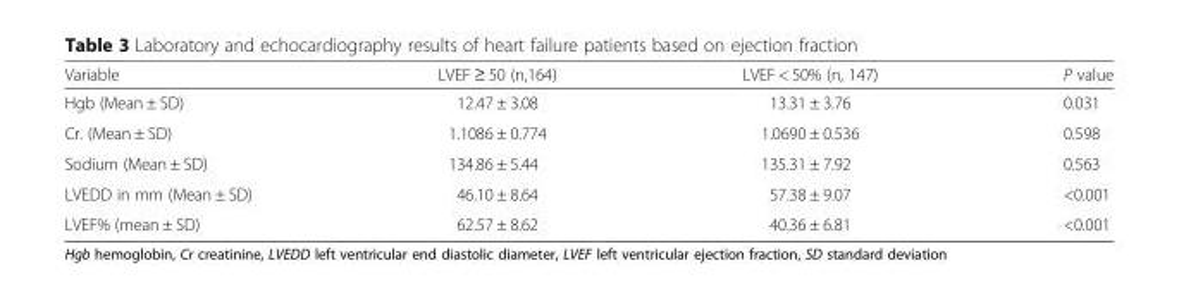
<table><thead><tr><td>Variable</td><td>LVEF ≥ 50 (n,164)</td><td>LVEF &lt; 50% (n, 147)</td><td>P value</td></tr></thead><tbody><tr><td>Hgb (Mean ± SD)</td><td>12.47 ± 3.08</td><td>13.31 ± 3.76</td><td>0.031</td></tr><tr><td>Cr. (Mean ± SD)</td><td>1.1086 ± 0.774</td><td>1.0690 ± 0.536</td><td>0.598</td></tr><tr><td>Sodium (Mean ± SD)</td><td>134.86 ± 5.44</td><td>135.31 ± 7.92</td><td>0.563</td></tr><tr><td>LVEDD in mm (Mean ± SD)</td><td>46.10 ± 8.64</td><td>57.38 ± 9.07</td><td>&lt;0.001</td></tr><tr><td>LVEF% (mean ± SD)</td><td>62.57 ± 8.62</td><td>40.36 ± 6.81</td><td>&lt;0.001</td></tr></tbody></table>